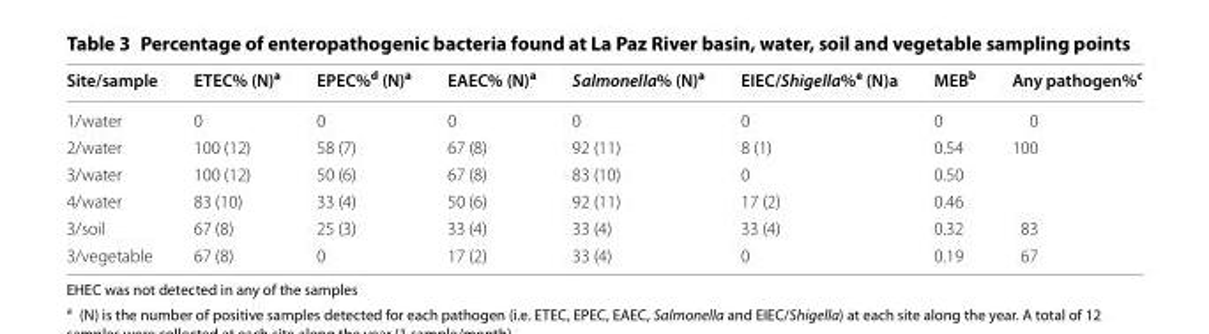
<table><thead><tr><td>Site/sample</td><td>ETEC% (N)<sup>a</sup></td><td>EPEC%<sup>d</sup> (N)<sup>a</sup></td><td>EAEC% (N)<sup>a</sup></td><td>Salmonella% (N)<sup>a</sup></td><td>EIEC/Shigella%<sup>e</sup> (N)a</td><td>MEB<sup>b</sup></td><td>Any pathogen%<sup>c</sup></td></tr></thead><tbody><tr><td>1/water</td><td>0</td><td>0</td><td>0</td><td>0</td><td>0</td><td>0</td><td>0</td></tr><tr><td>2/water</td><td>100 (12)</td><td>58 (7)</td><td>67 (8)</td><td>92 (11)</td><td>8 (1)</td><td>0.54</td><td>100</td></tr><tr><td>3/water</td><td>100 (12)</td><td>50 (6)</td><td>67 (8)</td><td>83 (10)</td><td>0</td><td>0.50</td><td></td></tr><tr><td>4/water</td><td>83 (10)</td><td>33 (4)</td><td>50 (6)</td><td>92 (11)</td><td>17 (2)</td><td>0.46</td><td></td></tr><tr><td>3/soil</td><td>67 (8)</td><td>25 (3)</td><td>33 (4)</td><td>33 (4)</td><td>33 (4)</td><td>0.32</td><td>83</td></tr><tr><td>3/vegetable</td><td>67 (8)</td><td>0</td><td>17 (2)</td><td>33 (4)</td><td>0</td><td>0.19</td><td>67</td></tr></tbody></table>